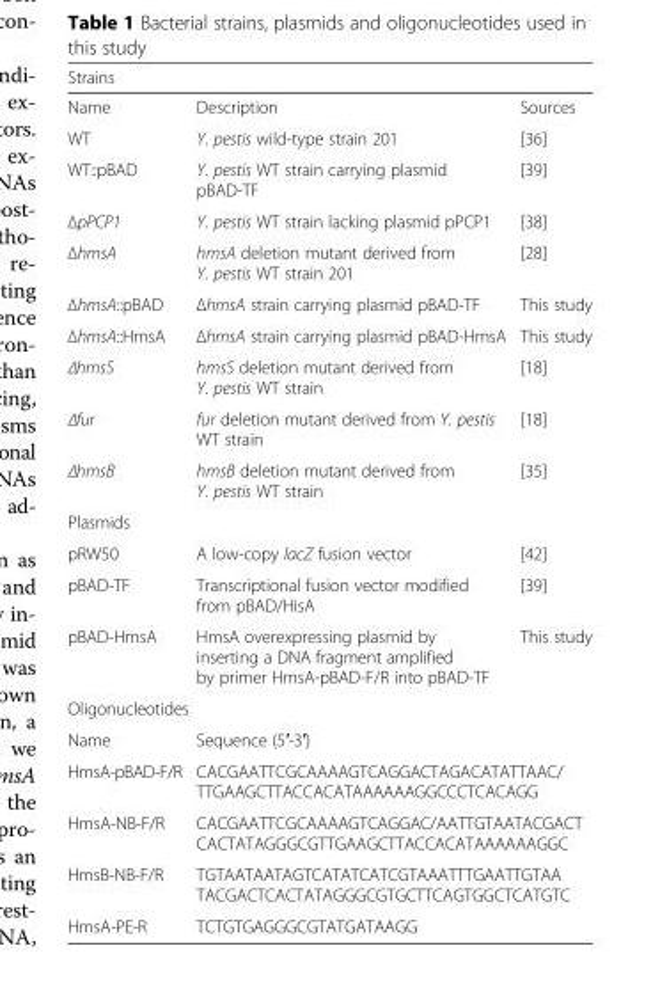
<table><thead><tr><td colspan="3">Strains</td></tr><tr><td>Name</td><td>Description</td><td>Sources</td></tr></thead><tbody><tr><td>WT</td><td>Y. pestis wild-type strain 201</td><td>[36]</td></tr><tr><td>WT::pBAD</td><td>Y. pestis WT strain carrying plasmid pBAD-TF</td><td>[39]</td></tr><tr><td>ΔpPCP1</td><td>Y. pestis WT strain lacking plasmid pPCP1</td><td>[38]</td></tr><tr><td>ΔhmsA</td><td>hmsA deletion mutant derived from Y. pestis WT strain 201</td><td>[28]</td></tr><tr><td>ΔhmsA::pBAD</td><td>ΔhmsA strain carrying plasmid pBAD-TF</td><td>This study</td></tr><tr><td>ΔhmsA::HmsA</td><td>ΔhmsA strain carrying plasmid pBAD-HmsA</td><td>This study</td></tr><tr><td>ΔhmsS</td><td>hmsS deletion mutant derived from Y. pestis WT strain</td><td>[18]</td></tr><tr><td>Δfur</td><td>fur deletion mutant derived from Y. pestis WT strain</td><td>[18]</td></tr><tr><td>ΔhmsB</td><td>hmsB deletion mutant derived from Y. pestis WT strain</td><td>[35]</td></tr><tr><td colspan="3">Plasmids</td></tr><tr><td>pRW50</td><td>A low-copy lacZ fusion vector</td><td>[42]</td></tr><tr><td>pBAD-TF</td><td>Transcriptional fusion vector modified from pBAD/HisA</td><td>[39]</td></tr><tr><td>pBAD-HmsA</td><td>HmsA overexpressing plasmid by inserting a DNA fragment amplified by primer HmsA-pBAD-F/R into pBAD-TF</td><td>This study</td></tr><tr><td colspan="3">Oligonucleotides</td></tr><tr><td>Name</td><td colspan="2">Sequence (5′-3′)</td></tr><tr><td>HmsA-pBAD-F/R</td><td colspan="2">CACGAATTCGCAAAAGTCAGGACTAGACATATTAAC/ TTGAAGCTTACCACATAAAAAAGGCCCTCACAGG</td></tr><tr><td>HmsA-NB-F/R</td><td colspan="2">CACGAATTCGCAAAAGTCAGGAC/AATTGTAATACGACT CACTATAGGGCGTTGAAGCTTACCACATAAAAAAGGC</td></tr><tr><td>HmsB-NB-F/R</td><td colspan="2">TGTAATAATAGTCATATCATCGTAAATTTGAATTGTAA TACGACTCACTATAGGGCGTGCTTCAGTGGCTCATGTC</td></tr><tr><td>HmsA-PE-R</td><td colspan="2">TCTGTGAGGGCGTATGATAAGG</td></tr></tbody></table>